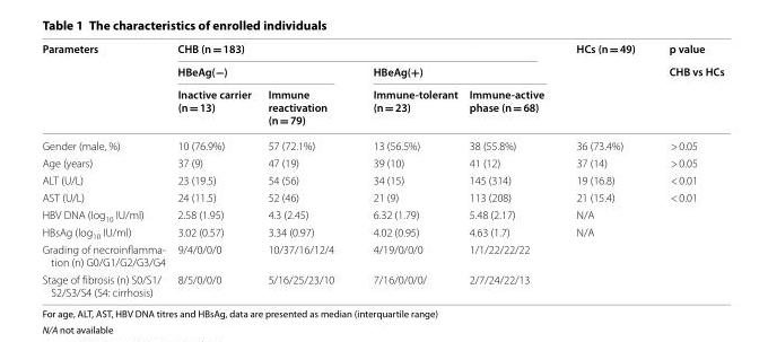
<table><thead><tr><td rowspan="3">Parameters</td><td colspan="4">CHB (n = 183)</td><td rowspan="3">HCs (n = 49)</td><td rowspan="3">p value CHB vs HCs</td></tr><tr><td colspan="2">HBeAg(−)</td><td colspan="2">HBeAg(+)</td></tr><tr><td>Inactive carrier (n = 13)</td><td>Immune reactivation (n = 79)</td><td>Immune-tolerant (n = 23)</td><td>Immune-active phase (n = 68)</td></tr></thead><tbody><tr><td>Gender (male, %)</td><td>10 (76.9%)</td><td>57 (72.1%)</td><td>13 (56.5%)</td><td>38 (55.8%)</td><td>36 (73.4%)</td><td>&gt; 0.05</td></tr><tr><td>Age (years)</td><td>37 (9)</td><td>47 (19)</td><td>39 (10)</td><td>41 (12)</td><td>37 (14)</td><td>&gt; 0.05</td></tr><tr><td>ALT (U/L)</td><td>23 (19.5)</td><td>54 (56)</td><td>34 (15)</td><td>145 (314)</td><td>19 (16.8)</td><td>&lt; 0.01</td></tr><tr><td>AST (U/L)</td><td>24 (11.5)</td><td>52 (46)</td><td>21 (9)</td><td>113 (208)</td><td>21 (15.4)</td><td>&lt; 0.01</td></tr><tr><td>HBV DNA (log<sub>10</sub> IU/ml)</td><td>2.58 (1.95)</td><td>4.3 (2.45)</td><td>6.32 (1.79)</td><td>5.48 (2.17)</td><td>N/A</td><td></td></tr><tr><td>HBsAg (log<sub>10</sub> IU/ml)</td><td>3.02 (0.57)</td><td>3.34 (0.97)</td><td>4.02 (0.95)</td><td>4.63 (1.7)</td><td>N/A</td><td></td></tr><tr><td>Grading of necroinflamma- tion (n) G0/G1/G2/G3/G4</td><td>9/4/0/0/0</td><td>10/37/16/12/4</td><td>4/19/0/0/0</td><td>1/1/22/22/22</td><td></td><td></td></tr><tr><td>Stage of fibrosis (n) S0/S1/ S2/S3/S4 (S4: cirrhosis)</td><td>8/5/0/0/0</td><td>5/16/25/23/10</td><td>7/16/0/0/0/</td><td>2/7/24/22/13</td><td></td><td></td></tr></tbody></table>